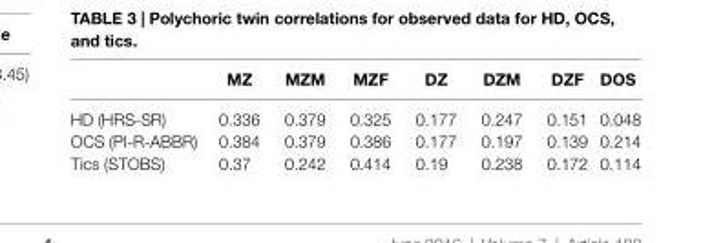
<table><thead><tr><td></td><td>MZ</td><td>MZM</td><td>MZF</td><td>DZ</td><td>DZM</td><td>DZF</td><td>DOs</td></tr></thead><tbody><tr><td>HD (HRS-SR)</td><td>0.336</td><td>0.379</td><td>0.325</td><td>0.177</td><td>0.247</td><td>0.151</td><td>0.048</td></tr><tr><td>OCS (PI-R-ABBR)</td><td>0.384</td><td>0.379</td><td>0.386</td><td>0.177</td><td>0.197</td><td>0.139</td><td>0.214</td></tr><tr><td>Tics (STOBS)</td><td>0.37</td><td>0.242</td><td>0.414</td><td>0.19</td><td>0.238</td><td>0.172</td><td>0.114</td></tr></tbody></table>